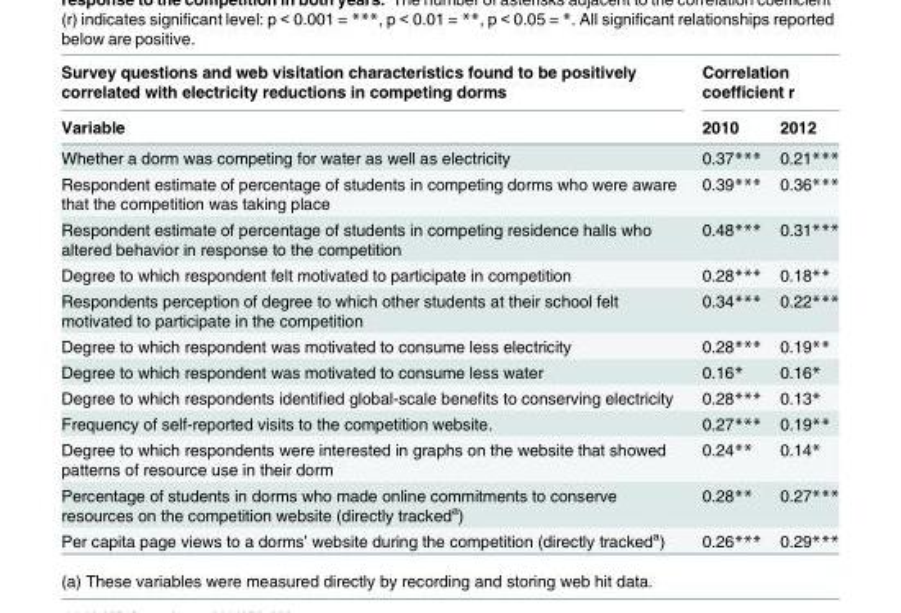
<table><thead><tr><td rowspan="2">Survey questions and web visitation characteristics found to be positively correlated with electricity reductions in competing dorms Variable</td><td colspan="2">Correlation coefficient r</td></tr><tr><td>2010</td><td>2012</td></tr></thead><tbody><tr><td>Whether a dorm was competing for water as well as electricity</td><td>0.37***</td><td>0.21***</td></tr><tr><td>Respondent estimate of percentage of students in competing dorms who were aware that the competition was taking place</td><td>0.39***</td><td>0.36***</td></tr><tr><td>Respondent estimate of percentage of students in competing residence halls who altered behavior in response to the competition</td><td>0.48***</td><td>0.31***</td></tr><tr><td>Degree to which respondent felt motivated to participate in competition</td><td>0.28***</td><td>0.18**</td></tr><tr><td>Respondents perception of degree to which other students at their school felt motivated to participate in the competition</td><td>0.34***</td><td>0.22***</td></tr><tr><td>Degree to which respondent was motivated to consume less electricity</td><td>0.28***</td><td>0.19**</td></tr><tr><td>Degree to which respondent was motivated to consume less water</td><td>0.16*</td><td>0.16*</td></tr><tr><td>Degree to which respondents identified global-scale benefits to conserving electricity</td><td>0.28***</td><td>0.13*</td></tr><tr><td>Frequency of self-reported visits to the competition website.</td><td>0.27***</td><td>0.19**</td></tr><tr><td>Degree to which respondents were interested in graphs on the website that showed patterns of resource use in their dorm</td><td>0.24**</td><td>0.14*</td></tr><tr><td>Percentage of students in dorms who made online commitments to conserve resources on the competition website (directly tracked<sup>a</sup>)</td><td>0.28**</td><td>0.27***</td></tr><tr><td>Per capita page views to a dorms’ website during the competition (directly tracked<sup>a</sup>)</td><td>0.26***</td><td>0.29***</td></tr></tbody></table>